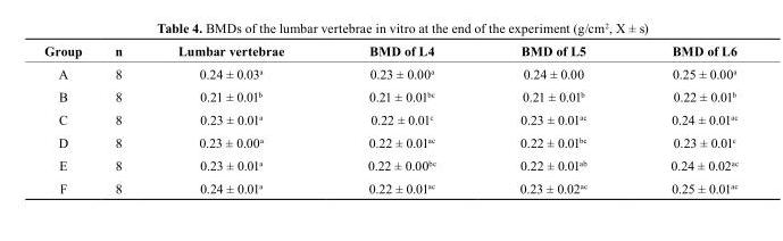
<table><thead><tr><td>Group</td><td>n</td><td>Lumbar vertebrae</td><td>bMD of L4</td><td>bMD of L5</td><td>bMD of L6</td></tr></thead><tbody><tr><td>A</td><td>8</td><td>0.24 ± 0.03<sup>a</sup></td><td>0.23 ± 0.00<sup>a</sup></td><td>0.24 ± 0.00</td><td>0.25 ± 0.00<sup>a</sup></td></tr><tr><td>B</td><td>8</td><td>0.21 ± 0.01<sup>b</sup></td><td>0.21 ± 0.01<sup>bc</sup></td><td>0.21 ± 0.01<sup>b</sup></td><td>0.22 ± 0.01<sup>b</sup></td></tr><tr><td>C</td><td>8</td><td>0.23 ± 0.01<sup>a</sup></td><td>0.22 ± 0.01<sup>c</sup></td><td>0.23 ± 0.01<sup>ac</sup></td><td>0.24 ± 0.01<sup>ac</sup></td></tr><tr><td>D</td><td>8</td><td>0.23 ± 0.00<sup>a</sup></td><td>0.22 ± 0.01<sup>ac</sup></td><td>0.22 ± 0.01<sup>bc</sup></td><td>0.23 ± 0.01<sup>c</sup></td></tr><tr><td>E</td><td>8</td><td>0.23 ± 0.01<sup>a</sup></td><td>0.22 ± 0.00<sup>bc</sup></td><td>0.22 ± 0.01<sup>ab</sup></td><td>0.24 ± 0.02<sup>ac</sup></td></tr><tr><td>F</td><td>8</td><td>0.24 ± 0.01<sup>a</sup></td><td>0.22 ± 0.01<sup>ac</sup></td><td>0.23 ± 0.02<sup>ac</sup></td><td>0.25 ± 0.01<sup>ac</sup></td></tr></tbody></table>